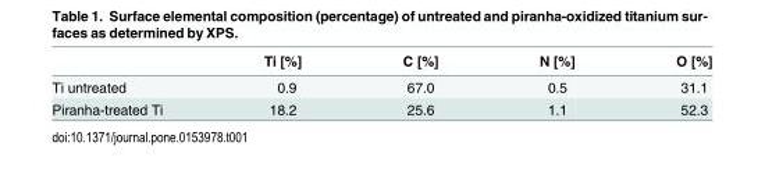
<table><thead><tr><td></td><td>Ti [%]</td><td>C [%]</td><td>N [%]</td><td>O [%]</td></tr></thead><tbody><tr><td>Ti untreated</td><td>0.9</td><td>67.0</td><td>0.5</td><td>31.1</td></tr><tr><td>Piranha-treated Ti</td><td>18.2</td><td>25.6</td><td>1.1</td><td>52.3</td></tr></tbody></table>